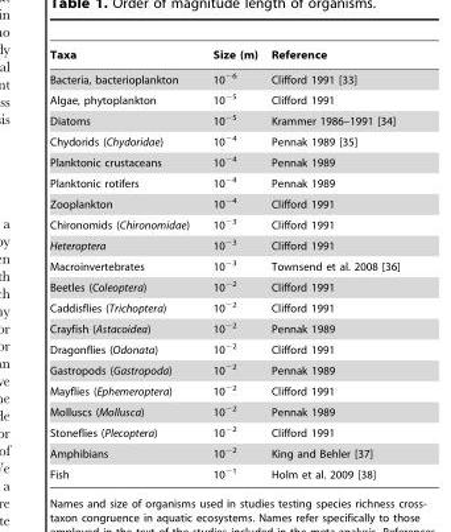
<table><thead><tr><td>Taxa</td><td>Size (m)</td><td>Reference</td></tr></thead><tbody><tr><td>Bacteria, bacterioplankton</td><td>10<sup>−6</sup></td><td>Clifford 1991 [33]</td></tr><tr><td>Algae, phytoplankton</td><td>10<sup>−5</sup></td><td>Clifford 1991</td></tr><tr><td>Diatoms</td><td>10<sup>−5</sup></td><td>Krammer 1986–1991 [34]</td></tr><tr><td>Chydorids (Chydoridae)</td><td>10<sup>−4</sup></td><td>Pennak 1989 [35]</td></tr><tr><td>Planktonic crustaceans</td><td>10<sup>−4</sup></td><td>Pennak 1989</td></tr><tr><td>Planktonic rotifers</td><td>10<sup>−4</sup></td><td>Pennak 1989</td></tr><tr><td>Zooplankton</td><td>10<sup>−4</sup></td><td>Clifford 1991</td></tr><tr><td>Chironomids (Chironomidae)</td><td>10<sup>−3</sup></td><td>Clifford 1991</td></tr><tr><td>Heteroptera</td><td>10<sup>−3</sup></td><td>Clifford 1991</td></tr><tr><td>Macroinvertebrates</td><td>10<sup>−3</sup></td><td>Townsend et al. 2008 [36]</td></tr><tr><td>Beetles (Coleoptera)</td><td>10<sup>−2</sup></td><td>Clifford 1991</td></tr><tr><td>Caddisflies (Trichoptera)</td><td>10<sup>−2</sup></td><td>Clifford 1991</td></tr><tr><td>Crayfish (Astacoidea)</td><td>10<sup>−2</sup></td><td>Pennak 1989</td></tr><tr><td>Dragonflies (Odonata)</td><td>10<sup>−2</sup></td><td>Clifford 1991</td></tr><tr><td>Gastropods (Gastropoda)</td><td>10<sup>−2</sup></td><td>Pennak 1989</td></tr><tr><td>Mayflies (Ephemeroptera)</td><td>10<sup>−2</sup></td><td>Clifford 1991</td></tr><tr><td>Molluscs (Mollusca)</td><td>10<sup>−2</sup></td><td>Pennak 1989</td></tr><tr><td>Stoneflies (Plecoptera)</td><td>10<sup>−2</sup></td><td>Clifford 1991</td></tr><tr><td>Amphibians</td><td>10<sup>−2</sup></td><td>King and Behler [37]</td></tr><tr><td>Fish</td><td>10<sup>−1</sup></td><td>Holm et al. 2009 [38]</td></tr></tbody></table>